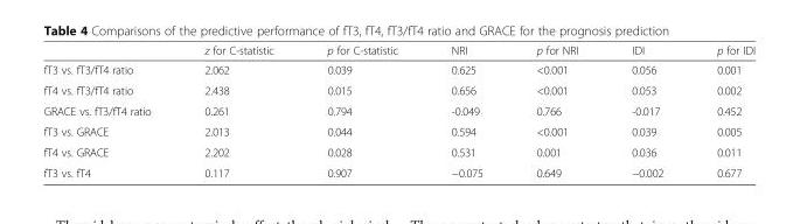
<table><thead><tr><td></td><td>z for C-statistic</td><td>p for C-statistic</td><td>NRI</td><td>p for NRI</td><td>IDI</td><td>p for IDI</td></tr></thead><tbody><tr><td>fT3 vs. fT3/fT4 ratio</td><td>2.062</td><td>0.039</td><td>0.625</td><td>&lt;0.001</td><td>0.056</td><td>0.001</td></tr><tr><td>fT4 vs. fT3/fT4 ratio</td><td>2.438</td><td>0.015</td><td>0.656</td><td>&lt;0.001</td><td>0.053</td><td>0.002</td></tr><tr><td>GRACE vs. fT3/fT4 ratio</td><td>0.261</td><td>0.794</td><td>-0.049</td><td>0.766</td><td>-0.017</td><td>0.452</td></tr><tr><td>fT3 vs. GRACE</td><td>2.013</td><td>0.044</td><td>0.594</td><td>&lt;0.001</td><td>0.039</td><td>0.005</td></tr><tr><td>fT4 vs. GRACE</td><td>2.202</td><td>0.028</td><td>0.531</td><td>0.001</td><td>0.036</td><td>0.011</td></tr><tr><td>fT3 vs. fT4</td><td>0.117</td><td>0.907</td><td>−0.075</td><td>0.649</td><td>−0.002</td><td>0.677</td></tr></tbody></table>